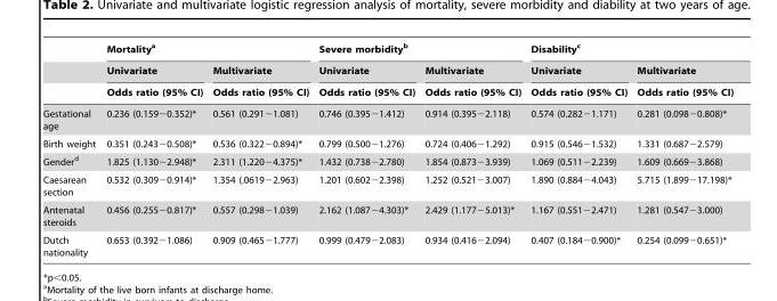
<table><thead><tr><td rowspan="3"></td><td colspan="2">Mortality<sup>a</sup></td><td colspan="2">Severe morbidity<sup>b</sup></td><td colspan="2">Disability<sup>c</sup></td></tr><tr><td rowspan="2">Univariate Odds ratio (95% CI)</td><td rowspan="2">Multivariate Odds ratio (95% CI)</td><td rowspan="2">Univariate Odds ratio (95% CI)</td><td rowspan="2">Multivariate Odds ratio (95% CI)</td><td rowspan="2">Univariate Odds ratio (95% CI)</td><td rowspan="2">Multivariate Odds ratio (95% CI)</td></tr><tr></tr></thead><tbody><tr><td>Gestational age</td><td>0.236 (0.159−0.352)*</td><td>0.561 (0.291−1.081)</td><td>0.746 (0.395−1.412)</td><td>0.914 (0.395−2.118)</td><td>0.574 (0.282−1.171)</td><td>0.281 (0.098−0.808)*</td></tr><tr><td>Birth weight</td><td>0.351 (0.243−0.508)*</td><td>0.536 (0.322−0.894)*</td><td>0.799 (0.500−1.276)</td><td>0.724 (0.406−1.292)</td><td>0.915 (0.546−1.532)</td><td>1.331 (0.687−2.579)</td></tr><tr><td>Gender<sup>d</sup></td><td>1.825 (1.130−2.948)*</td><td>2.311 (1.220−4.375)*</td><td>1.432 (0.738−2.780)</td><td>1.854 (0.873−3.939)</td><td>1.069 (0.511−2.239)</td><td>1.609 (0.669−3.868)</td></tr><tr><td>Caesarean section</td><td>0.532 (0.309−0.914)*</td><td>1.354 (.0619−2.963)</td><td>1.201 (0.602−2.398)</td><td>1.252 (0.521−3.007)</td><td>1.890 (0.884−4.043)</td><td>5.715 (1.899−17.198)*</td></tr><tr><td>Antenatal steroids</td><td>0.456 (0.255−0.817)*</td><td>0.557 (0.298−1.039)</td><td>2.162 (1.087−4.303)*</td><td>2.429 (1.177−5.013)*</td><td>1.167 (0.551−2.471)</td><td>1.281 (0.547−3.000)</td></tr><tr><td>Dutch nationality</td><td>0.653 (0.392−1.086)</td><td>0.909 (0.465−1.777)</td><td>0.999 (0.479−2.083)</td><td>0.934 (0.416−2.094)</td><td>0.407 (0.184−0.900)*</td><td>0.254 (0.099−0.651)*</td></tr></tbody></table>